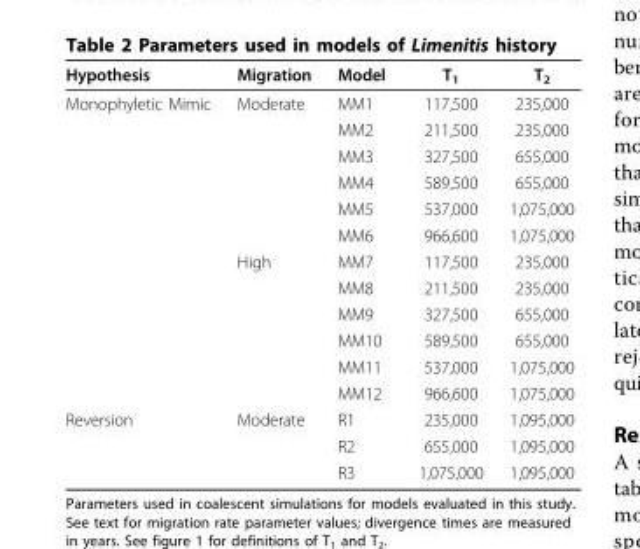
<table><thead><tr><td>Hypothesis</td><td>Migration</td><td>Model</td><td>T<sub>1</sub></td><td>T<sub>2</sub></td></tr></thead><tbody><tr><td rowspan="12">Monophyletic Mimic</td><td>Moderate</td><td>MM1</td><td>117,500</td><td>235,000</td></tr><tr><td></td><td>MM2</td><td>211,500</td><td>235,000</td></tr><tr><td></td><td>MM3</td><td>327,500</td><td>655,000</td></tr><tr><td></td><td>MM4</td><td>589,500</td><td>655,000</td></tr><tr><td></td><td>MM5</td><td>537,000</td><td>1,075,000</td></tr><tr><td></td><td>MM6</td><td>966,600</td><td>1,075,000</td></tr><tr><td>High</td><td>MM7</td><td>117,500</td><td>235,000</td></tr><tr><td></td><td>MM8</td><td>211,500</td><td>235,000</td></tr><tr><td></td><td>MM9</td><td>327,500</td><td>655,000</td></tr><tr><td></td><td>MM10</td><td>589,500</td><td>655,000</td></tr><tr><td></td><td>MM11</td><td>537,000</td><td>1,075,000</td></tr><tr><td></td><td>MM12</td><td>966,600</td><td>1,075,000</td></tr><tr><td rowspan="3">Reversion</td><td>Moderate</td><td>R1</td><td>235,000</td><td>1,095,000</td></tr><tr><td></td><td>R2</td><td>655,000</td><td>1,095,000</td></tr><tr><td></td><td>R3</td><td>1,075,000</td><td>1,095,000</td></tr></tbody></table>